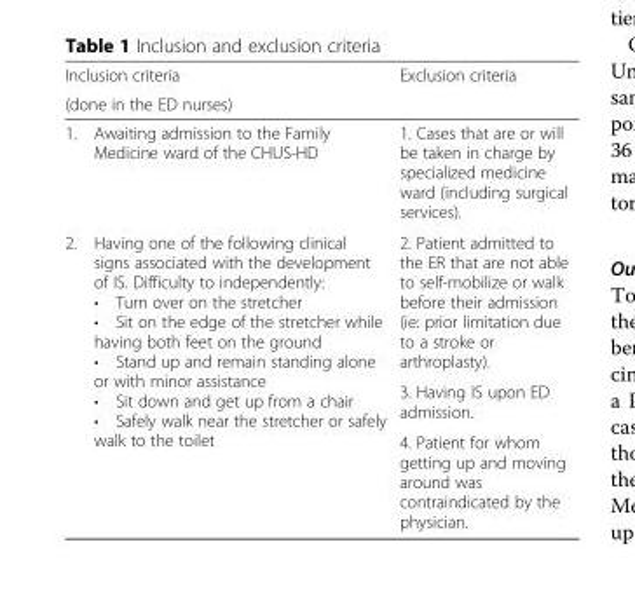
<table><thead><tr><td rowspan="2">Inclusion criteria (done in the ED nurses)</td><td rowspan="2">Exclusion criteria</td></tr><tr></tr></thead><tbody><tr><td>1. Awaiting admission to the Family Medicine ward of the CHUS-HD</td><td>1. Cases that are or will be taken in charge by specialized medicine ward (including surgical services).</td></tr><tr><td rowspan="3">2. Having one of the following clinical signs associated with the development of IS. Difficulty to independently: • Turn over on the stretcher • Sit on the edge of the stretcher while having both feet on the ground • Stand up and remain standing alone or with minor assistance • Sit down and get up from a chair • Safely walk near the stretcher or safely walk to the toilet</td><td>2. Patient admitted to the ER that are not able to self-mobilize or walk before their admission (ie: prior limitation due to a stroke or arthroplasty).</td></tr><tr><td>3. Having IS upon ED admission.</td></tr><tr><td>4. Patient for whom getting up and moving around was contraindicated by the physician.</td></tr></tbody></table>